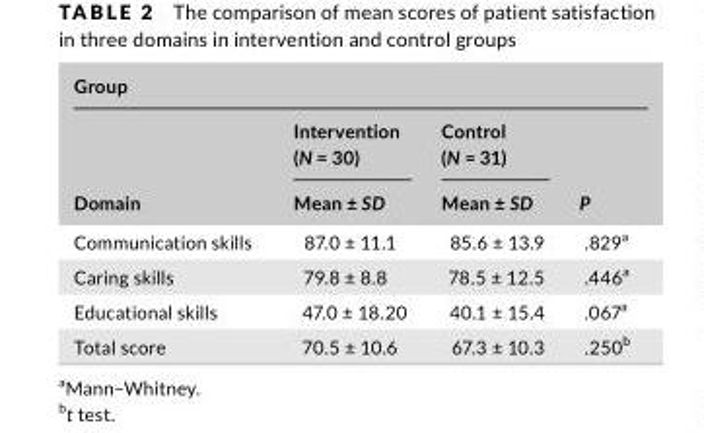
<table><thead><tr><td colspan="4">Group</td></tr><tr><td rowspan="2">Domain</td><td rowspan="2">Intervention (N = 30) Mean ± SD</td><td rowspan="2">Control (N = 31) Mean ± SD</td><td rowspan="2">P</td></tr><tr></tr></thead><tbody><tr><td>Communication skills</td><td>87.0 ± 11.1</td><td>85.6 ± 13.9</td><td>.829<sup>a</sup></td></tr><tr><td>Caring skills</td><td>79.8 ± 8.8</td><td>78.5 ± 12.5</td><td>.446<sup>a</sup></td></tr><tr><td>Educational skills</td><td>47.0 ± 18.20</td><td>40.1 ± 15.4</td><td>.067<sup>a</sup></td></tr><tr><td>Total score</td><td>70.5 ± 10.6</td><td>67.3 ± 10.3</td><td>.250<sup>b</sup></td></tr></tbody></table>